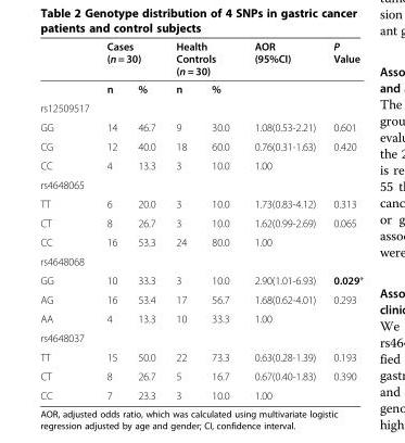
<table><thead><tr><td rowspan="2"></td><td colspan="2">Cases (n = 30)</td><td colspan="2">Health Controls (n = 30)</td><td rowspan="2">AOR (95%CI)</td><td rowspan="2">P Value</td></tr><tr><td>n</td><td>%</td><td>n</td><td>%</td></tr></thead><tbody><tr><td colspan="7">rs12509517</td></tr><tr><td>GG</td><td>14</td><td>46.7</td><td>9</td><td>30.0</td><td>1.08(0.53-2.21)</td><td>0.601</td></tr><tr><td>CG</td><td>12</td><td>40.0</td><td>18</td><td>60.0</td><td>0.76(0.31-1.63)</td><td>0.420</td></tr><tr><td>CC</td><td>4</td><td>13.3</td><td>3</td><td>10.0</td><td>1.00</td><td></td></tr><tr><td colspan="7">rs4648065</td></tr><tr><td>TT</td><td>6</td><td>20.0</td><td>3</td><td>10.0</td><td>1.73(0.83-4.12)</td><td>0.313</td></tr><tr><td>CT</td><td>8</td><td>26.7</td><td>3</td><td>10.0</td><td>1.62(0.99-2.69)</td><td>0.065</td></tr><tr><td>CC</td><td>16</td><td>53.3</td><td>24</td><td>80.0</td><td>1.00</td><td></td></tr><tr><td colspan="7">rs4648068</td></tr><tr><td>GG</td><td>10</td><td>33.3</td><td>3</td><td>10.0</td><td>2.90(1.01-6.93)</td><td>0.029*</td></tr><tr><td>AG</td><td>16</td><td>53.4</td><td>17</td><td>56.7</td><td>1.68(0.62-4.01)</td><td>0.293</td></tr><tr><td>AA</td><td>4</td><td>13.3</td><td>10</td><td>33.3</td><td>1.00</td><td></td></tr><tr><td colspan="7">rs4648037</td></tr><tr><td>TT</td><td>15</td><td>50.0</td><td>22</td><td>73.3</td><td>0.63(0.28-1.39)</td><td>0.193</td></tr><tr><td>CT</td><td>8</td><td>26.7</td><td>5</td><td>16.7</td><td>0.67(0.40-1.83)</td><td>0.390</td></tr><tr><td>CC</td><td>7</td><td>23.3</td><td>3</td><td>10.0</td><td>1.00</td><td></td></tr></tbody></table>